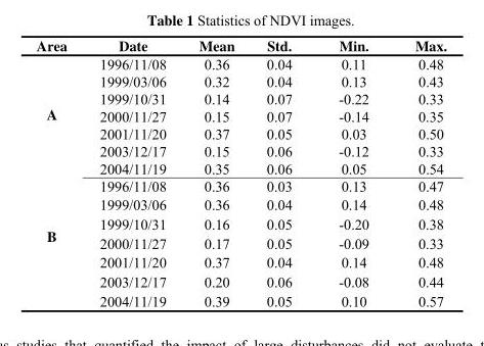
<table><thead><tr><td>Area</td><td>Date</td><td>Mean</td><td>Std.</td><td>Min.</td><td>Max.</td></tr></thead><tbody><tr><td rowspan="7">A</td><td>1996/11/08</td><td>0.36</td><td>0.04</td><td>0.11</td><td>0.48</td></tr><tr><td>1999/03/06</td><td>0.32</td><td>0.04</td><td>0.13</td><td>0.43</td></tr><tr><td>1999/10/31</td><td>0.14</td><td>0.07</td><td>-0.22</td><td>0.33</td></tr><tr><td>2000/11/27</td><td>0.15</td><td>0.07</td><td>-0.14</td><td>0.35</td></tr><tr><td>2001/11/20</td><td>0.37</td><td>0.05</td><td>0.03</td><td>0.50</td></tr><tr><td>2003/12/17</td><td>0.15</td><td>0.06</td><td>-0.12</td><td>0.33</td></tr><tr><td>2004/11/19</td><td>0.35</td><td>0.06</td><td>0.05</td><td>0.54</td></tr><tr><td rowspan="7">B</td><td>1996/11/08</td><td>0.36</td><td>0.03</td><td>0.13</td><td>0.47</td></tr><tr><td>1999/03/06</td><td>0.36</td><td>0.04</td><td>0.14</td><td>0.48</td></tr><tr><td>1999/10/31</td><td>0.16</td><td>0.05</td><td>-0.20</td><td>0.38</td></tr><tr><td>2000/11/27</td><td>0.17</td><td>0.05</td><td>-0.09</td><td>0.33</td></tr><tr><td>2001/11/20</td><td>0.37</td><td>0.04</td><td>0.14</td><td>0.48</td></tr><tr><td>2003/12/17</td><td>0.20</td><td>0.06</td><td>-0.08</td><td>0.44</td></tr><tr><td>2004/11/19</td><td>0.39</td><td>0.05</td><td>0.10</td><td>0.57</td></tr></tbody></table>